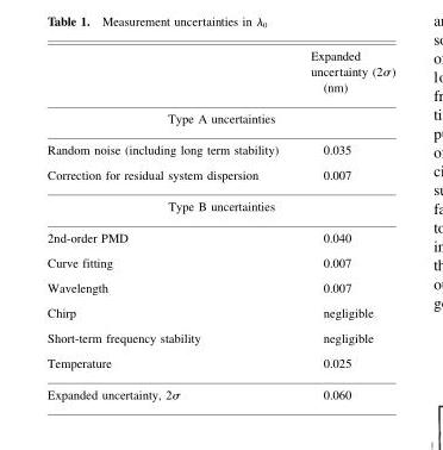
<table><thead><tr><td></td><td>Expanded uncertainty (2σ) (nm)</td></tr></thead><tbody><tr><td colspan="2">Type A uncertainties</td></tr><tr><td>Random noise (including long term stability)</td><td>0.035</td></tr><tr><td>Correction for residual system dispersion</td><td>0.007</td></tr><tr><td colspan="2">Type B uncertainties</td></tr><tr><td>2nd-order PMD</td><td>0.040</td></tr><tr><td>Curve fitting</td><td>0.007</td></tr><tr><td>Wavelength</td><td>0.007</td></tr><tr><td>Chirp</td><td>negligible</td></tr><tr><td>Short-term frequency stability</td><td>negligible</td></tr><tr><td>Temperature</td><td>0.025</td></tr><tr><td>Expanded uncertainty, 2σ</td><td>0.060</td></tr></tbody></table>